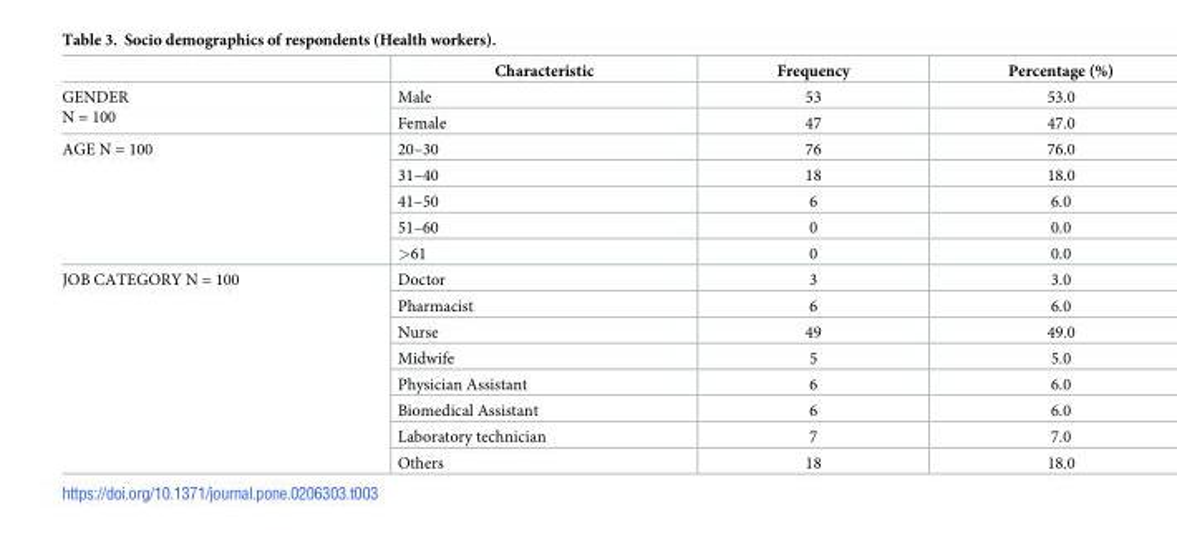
<table><thead><tr><td></td><td>Characteristic</td><td>Frequency</td><td>Percentage (%)</td></tr></thead><tbody><tr><td rowspan="2">GENDER N = 100</td><td>Male</td><td>53</td><td>53.0</td></tr><tr><td>Female</td><td>47</td><td>47.0</td></tr><tr><td rowspan="5">AGE N = 100</td><td>20–30</td><td>76</td><td>76.0</td></tr><tr><td>31–40</td><td>18</td><td>18.0</td></tr><tr><td>41–50</td><td>6</td><td>6.0</td></tr><tr><td>51–60</td><td>0</td><td>0.0</td></tr><tr><td>&gt;61</td><td>0</td><td>0.0</td></tr><tr><td rowspan="8">JOB CATEGORY N = 100</td><td>Doctor</td><td>3</td><td>3.0</td></tr><tr><td>Pharmacist</td><td>6</td><td>6.0</td></tr><tr><td>Nurse</td><td>49</td><td>49.0</td></tr><tr><td>Midwife</td><td>5</td><td>5.0</td></tr><tr><td>Physician Assistant</td><td>6</td><td>6.0</td></tr><tr><td>Biomedical Assistant</td><td>6</td><td>6.0</td></tr><tr><td>Laboratory technician</td><td>7</td><td>7.0</td></tr><tr><td>Others</td><td>18</td><td>18.0</td></tr></tbody></table>